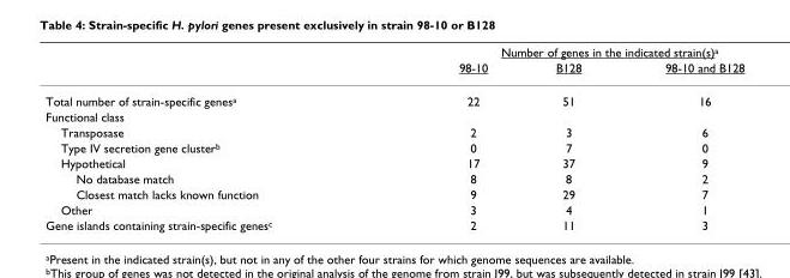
<table><thead><tr><td rowspan="2"></td><td colspan="3">Number of genes in the indicated strain(s)<sup>a</sup></td></tr><tr><td>98-10</td><td>B128</td><td>98-10 and B128</td></tr></thead><tbody><tr><td>Total number of strain-specific genes<sup>a</sup></td><td>22</td><td>51</td><td>16</td></tr><tr><td colspan="4">Functional class</td></tr><tr><td>Transposase</td><td>2</td><td>3</td><td>6</td></tr><tr><td>Type IV secretion gene cluster<sup>b</sup></td><td>0</td><td>7</td><td>0</td></tr><tr><td>Hypothetical</td><td>17</td><td>37</td><td>9</td></tr><tr><td>No database match</td><td>8</td><td>8</td><td>2</td></tr><tr><td>Closest match lacks known function</td><td>9</td><td>29</td><td>7</td></tr><tr><td>Other</td><td>3</td><td>4</td><td>1</td></tr><tr><td>Gene islands containing strain-specific genes<sup>c</sup></td><td>2</td><td>11</td><td>3</td></tr></tbody></table>